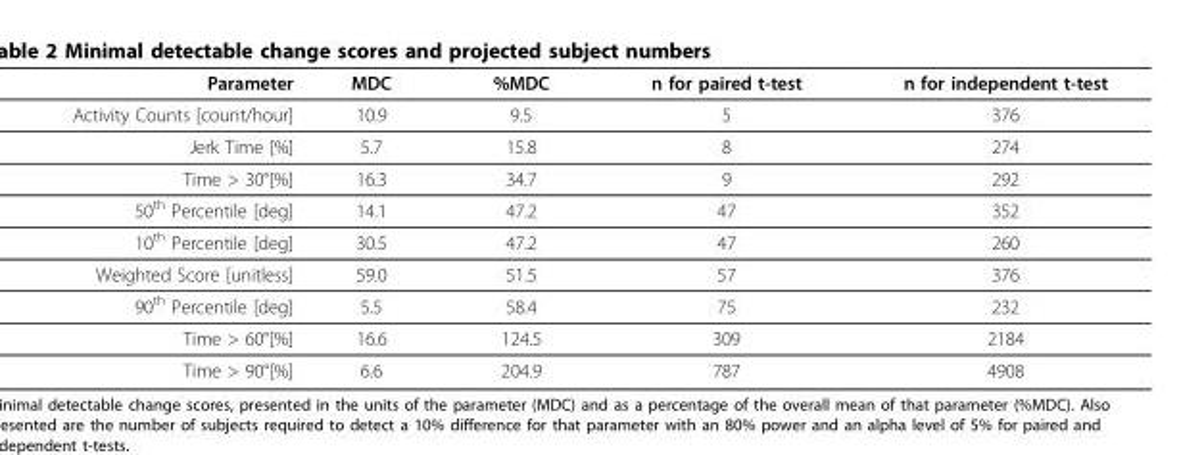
<table><thead><tr><td>Parameter</td><td>MDC</td><td>%MDC</td><td>n for paired t-test</td><td>n for independent t-test</td></tr></thead><tbody><tr><td>Activity Counts [count/hour]</td><td>10.9</td><td>9.5</td><td>5</td><td>376</td></tr><tr><td>Jerk Time [%]</td><td>5.7</td><td>15.8</td><td>8</td><td>274</td></tr><tr><td>Time &gt; 30°[%]</td><td>16.3</td><td>34.7</td><td>9</td><td>292</td></tr><tr><td>50<sup>th</sup> Percentile [deg]</td><td>14.1</td><td>47.2</td><td>47</td><td>352</td></tr><tr><td>10<sup>th</sup> Percentile [deg]</td><td>30.5</td><td>47.2</td><td>47</td><td>260</td></tr><tr><td>Weighted Score [unitless]</td><td>59.0</td><td>51.5</td><td>57</td><td>376</td></tr><tr><td>90<sup>th</sup> Percentile [deg]</td><td>5.5</td><td>58.4</td><td>75</td><td>232</td></tr><tr><td>Time &gt; 60°[%]</td><td>16.6</td><td>124.5</td><td>309</td><td>2184</td></tr><tr><td>Time &gt; 90°[%]</td><td>6.6</td><td>204.9</td><td>787</td><td>4908</td></tr></tbody></table>